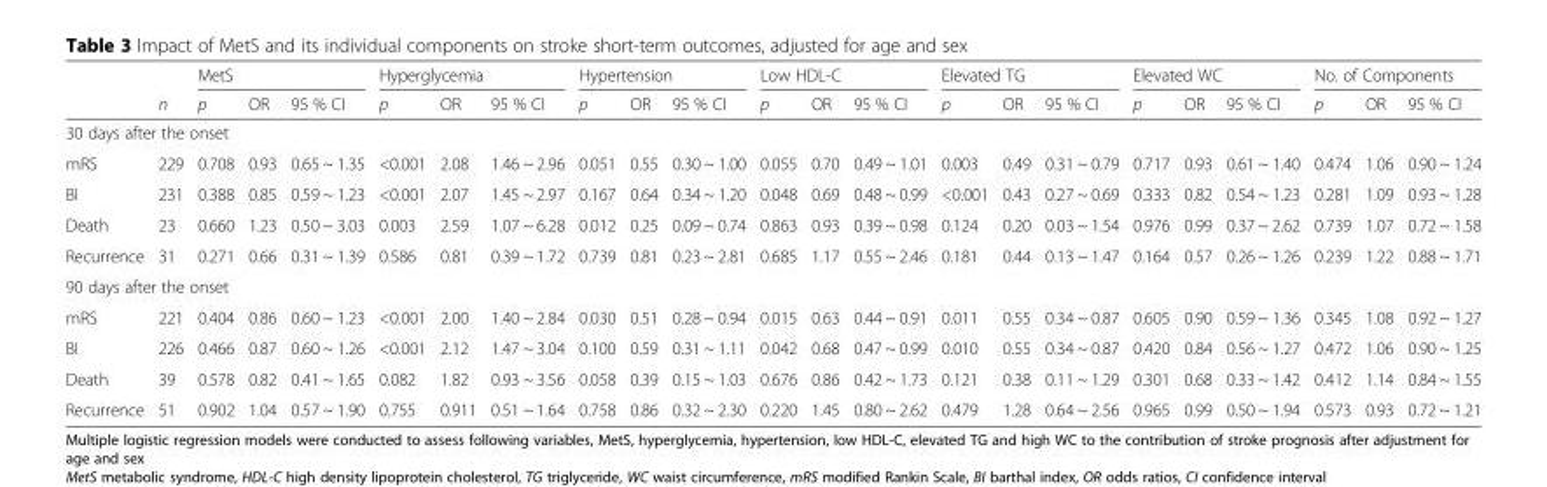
<table><thead><tr><td rowspan="2"></td><td rowspan="2">n</td><td colspan="3">MetS</td><td colspan="3">Hyperglycemia</td><td colspan="3">Hypertension</td><td colspan="3">Low HDL-C</td><td colspan="3">Elevated TG</td><td colspan="3">Elevated WC</td><td colspan="3">No. of Components</td></tr><tr><td>p</td><td>OR</td><td>95 % CI</td><td>p</td><td>OR</td><td>95 % CI</td><td>p</td><td>OR</td><td>95 % CI</td><td>p</td><td>OR</td><td>95 % CI</td><td>p</td><td>OR</td><td>95 % CI</td><td>p</td><td>OR</td><td>95 % CI</td><td>p</td><td>OR</td><td>95 % CI</td></tr></thead><tbody><tr><td colspan="23">30 days after the onset</td></tr><tr><td>mRS</td><td>229</td><td>0.708</td><td>0.93</td><td>0.65 ~ 1.35</td><td>&lt;0.001</td><td>2.08</td><td>1.46 ~ 2.96</td><td>0.051</td><td>0.55</td><td>0.30 ~ 1.00</td><td>0.055</td><td>0.70</td><td>0.49 ~ 1.01</td><td>0.003</td><td>0.49</td><td>0.31 ~ 0.79</td><td>0.717</td><td>0.93</td><td>0.61 ~ 1.40</td><td>0.474</td><td>1.06</td><td>0.90 ~ 1.24</td></tr><tr><td>BI</td><td>231</td><td>0.388</td><td>0.85</td><td>0.59 ~ 1.23</td><td>&lt;0.001</td><td>2.07</td><td>1.45 ~ 2.97</td><td>0.167</td><td>0.64</td><td>0.34 ~ 1.20</td><td>0.048</td><td>0.69</td><td>0.48 ~ 0.99</td><td>&lt;0.001</td><td>0.43</td><td>0.27 ~ 0.69</td><td>0.333</td><td>0.82</td><td>0.54 ~ 1.23</td><td>0.281</td><td>1.09</td><td>0.93 ~ 1.28</td></tr><tr><td>Death</td><td>23</td><td>0.660</td><td>1.23</td><td>0.50 ~ 3.03</td><td>0.003</td><td>2.59</td><td>1.07 ~ 6.28</td><td>0.012</td><td>0.25</td><td>0.09 ~ 0.74</td><td>0.863</td><td>0.93</td><td>0.39 ~ 0.98</td><td>0.124</td><td>0.20</td><td>0.03 ~ 1.54</td><td>0.976</td><td>0.99</td><td>0.37 ~ 2.62</td><td>0.739</td><td>1.07</td><td>0.72 ~ 1.58</td></tr><tr><td>Recurrence</td><td>31</td><td>0.271</td><td>0.66</td><td>0.31 ~ 1.39</td><td>0.586</td><td>0.81</td><td>0.39 ~ 1.72</td><td>0.739</td><td>0.81</td><td>0.23 ~ 2.81</td><td>0.685</td><td>1.17</td><td>0.55 ~ 2.46</td><td>0.181</td><td>0.44</td><td>0.13 ~ 1.47</td><td>0.164</td><td>0.57</td><td>0.26 ~ 1.26</td><td>0.239</td><td>1.22</td><td>0.88 ~ 1.71</td></tr><tr><td colspan="23">90 days after the onset</td></tr><tr><td>mRS</td><td>221</td><td>0.404</td><td>0.86</td><td>0.60 ~ 1.23</td><td>&lt;0.001</td><td>2.00</td><td>1.40 ~ 2.84</td><td>0.030</td><td>0.51</td><td>0.28 ~ 0.94</td><td>0.015</td><td>0.63</td><td>0.44 ~ 0.91</td><td>0.011</td><td>0.55</td><td>0.34 ~ 0.87</td><td>0.605</td><td>0.90</td><td>0.59 ~ 1.36</td><td>0.345</td><td>1.08</td><td>0.92 ~ 1.27</td></tr><tr><td>BI</td><td>226</td><td>0.466</td><td>0.87</td><td>0.60 ~ 1.26</td><td>&lt;0.001</td><td>2.12</td><td>1.47 ~ 3.04</td><td>0.100</td><td>0.59</td><td>0.31 ~ 1.11</td><td>0.042</td><td>0.68</td><td>0.47 ~ 0.99</td><td>0.010</td><td>0.55</td><td>0.34 ~ 0.87</td><td>0.420</td><td>0.84</td><td>0.56 ~ 1.27</td><td>0.472</td><td>1.06</td><td>0.90 ~ 1.25</td></tr><tr><td>Death</td><td>39</td><td>0.578</td><td>0.82</td><td>0.41 ~ 1.65</td><td>0.082</td><td>1.82</td><td>0.93 ~ 3.56</td><td>0.058</td><td>0.39</td><td>0.15 ~ 1.03</td><td>0.676</td><td>0.86</td><td>0.42 ~ 1.73</td><td>0.121</td><td>0.38</td><td>0.11 ~ 1.29</td><td>0.301</td><td>0.68</td><td>0.33 ~ 1.42</td><td>0.412</td><td>1.14</td><td>0.84 ~ 1.55</td></tr><tr><td>Recurrence</td><td>51</td><td>0.902</td><td>1.04</td><td>0.57 ~ 1.90</td><td>0.755</td><td>0.911</td><td>0.51 ~ 1.64</td><td>0.758</td><td>0.86</td><td>0.32 ~ 2.30</td><td>0.220</td><td>1.45</td><td>0.80 ~ 2.62</td><td>0.479</td><td>1.28</td><td>0.64 ~ 2.56</td><td>0.965</td><td>0.99</td><td>0.50 ~ 1.94</td><td>0.573</td><td>0.93</td><td>0.72 ~ 1.21</td></tr></tbody></table>